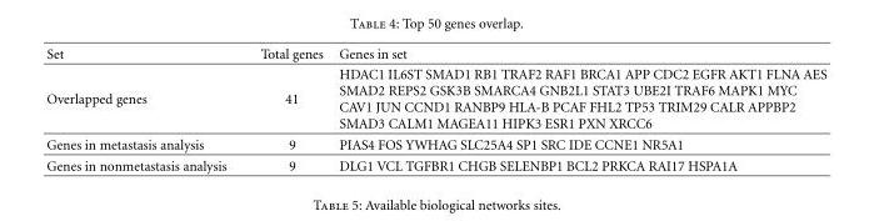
<table><thead><tr><td>Set</td><td>Total genes</td><td>Genes in set</td></tr></thead><tbody><tr><td>Overlapped genes</td><td>41</td><td>HDAC1 IL6ST SMAD1 RB1 TRAF2 RAF1 BRCA1 APP CDC2 EGFR AKT1 FLNA AES SMAD2 REPS2 GSK3B SMARCA4 GNB2L1 STAT3 UBE2I TRAF6 MAPK1 MYC CAV1 JUN CCND1 RANBP9 HLA-B PCAF FHL2 TP53 TRIM29 CALR APPBP2 SMAD3 CALM1 MAGEA11 HIPK3 ESR1 PXN XRCC6</td></tr><tr><td>Genes in metastasis analysis</td><td>9</td><td>PIAS4 FOS YWHAG SLC25A4 SP1 SRC IDE CCNE1 NR5A1</td></tr><tr><td>Genes in nonmetastasis analysis</td><td>9</td><td>DLG1 VCL TGFBR1 CHGB SELENBP1 BCL2 PRKCA RAI17 HSPA1A</td></tr></tbody></table>